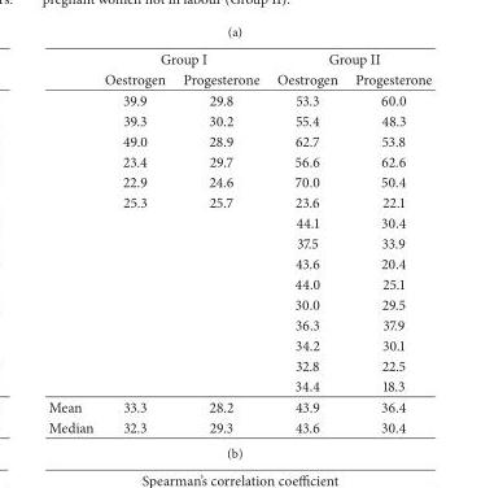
<table><thead><tr><td rowspan="2"></td><td colspan="2">Group I</td><td colspan="2">Group II</td></tr><tr><td>Oestrogen</td><td>Progesterone</td><td>Oestrogen</td><td>Progesterone</td></tr></thead><tbody><tr><td></td><td>39.9</td><td>29.8</td><td>53.3</td><td>60.0</td></tr><tr><td></td><td>39.3</td><td>30.2</td><td>55.4</td><td>48.3</td></tr><tr><td></td><td>49.0</td><td>28.9</td><td>62.7</td><td>53.8</td></tr><tr><td></td><td>23.4</td><td>29.7</td><td>56.6</td><td>62.6</td></tr><tr><td></td><td>22.9</td><td>24.6</td><td>70.0</td><td>50.4</td></tr><tr><td></td><td>25.3</td><td>25.7</td><td>23.6</td><td>22.1</td></tr><tr><td></td><td></td><td></td><td>44.1</td><td>30.4</td></tr><tr><td></td><td></td><td></td><td>37.5</td><td>33.9</td></tr><tr><td></td><td></td><td></td><td>43.6</td><td>20.4</td></tr><tr><td></td><td></td><td></td><td>44.0</td><td>25.1</td></tr><tr><td></td><td></td><td></td><td>30.0</td><td>29.5</td></tr><tr><td></td><td></td><td></td><td>36.3</td><td>37.9</td></tr><tr><td></td><td></td><td></td><td>34.2</td><td>30.1</td></tr><tr><td></td><td></td><td></td><td>32.8</td><td>22.5</td></tr><tr><td></td><td></td><td></td><td>34.4</td><td>18.3</td></tr><tr><td>Mean</td><td>33.3</td><td>28.2</td><td>43.9</td><td>36.4</td></tr><tr><td>Median</td><td>32.3</td><td>29.3</td><td>43.6</td><td>30.4</td></tr></tbody></table>